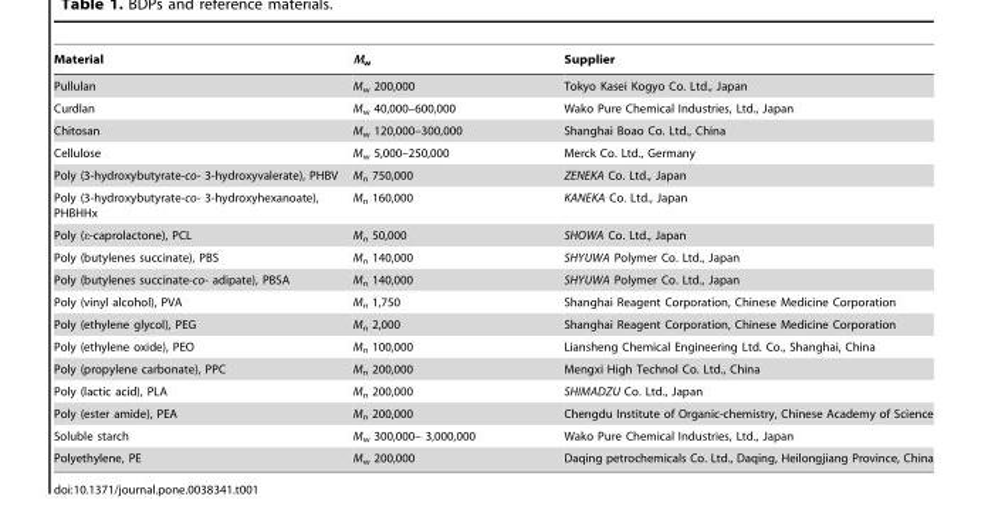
<table><thead><tr><td>Material</td><td>M<sub>w</sub></td><td>Supplier</td></tr></thead><tbody><tr><td>Pullulan</td><td>M<sub>w</sub> 200,000</td><td>Tokyo Kasei Kogyo Co. Ltd., Japan</td></tr><tr><td>Curdlan</td><td>M<sub>w</sub> 40,000–600,000</td><td>Wako Pure Chemical Industries, Ltd., Japan</td></tr><tr><td>Chitosan</td><td>M<sub>w</sub> 120,000–300,000</td><td>Shanghai Boao Co. Ltd., China</td></tr><tr><td>Cellulose</td><td>M<sub>w</sub> 5,000–250,000</td><td>Merck Co. Ltd., Germany</td></tr><tr><td>Poly (3-hydroxybutyrate-co- 3-hydroxyvalerate), PHBV</td><td>M<sub>n</sub> 750,000</td><td>ZENEKA Co. Ltd., Japan</td></tr><tr><td>Poly (3-hydroxybutyrate-co- 3-hydroxyhexanoate), PHBHHx</td><td>M<sub>n</sub> 160,000</td><td>KANEKA Co. Ltd., Japan</td></tr><tr><td>Poly (ε-caprolactone), PCL</td><td>M<sub>n</sub> 50,000</td><td>SHOWA Co. Ltd., Japan</td></tr><tr><td>Poly (butylenes succinate), PBS</td><td>M<sub>n</sub> 140,000</td><td>SHYUWA Polymer Co. Ltd., Japan</td></tr><tr><td>Poly (butylenes succinate-co- adipate), PBSA</td><td>M<sub>n</sub> 140,000</td><td>SHYUWA Polymer Co. Ltd., Japan</td></tr><tr><td>Poly (vinyl alcohol), PVA</td><td>M<sub>n</sub> 1,750</td><td>Shanghai Reagent Corporation, Chinese Medicine Corporation</td></tr><tr><td>Poly (ethylene glycol), PEG</td><td>M<sub>n</sub> 2,000</td><td>Shanghai Reagent Corporation, Chinese Medicine Corporation</td></tr><tr><td>Poly (ethylene oxide), PEO</td><td>M<sub>n</sub> 100,000</td><td>Liansheng Chemical Engineering Ltd. Co., Shanghai, China</td></tr><tr><td>Poly (propylene carbonate), PPC</td><td>M<sub>n</sub> 200,000</td><td>Mengxi High Technol Co. Ltd., China</td></tr><tr><td>Poly (lactic acid), PLA</td><td>M<sub>n</sub> 200,000</td><td>SHIMADZU Co. Ltd., Japan</td></tr><tr><td>Poly (ester amide), PEA</td><td>M<sub>n</sub> 200,000</td><td>Chengdu Institute of Organic-chemistry, Chinese Academy of Science</td></tr><tr><td>Soluble starch</td><td>M<sub>w</sub> 300,000– 3,000,000</td><td>Wako Pure Chemical Industries, Ltd., Japan</td></tr><tr><td>Polyethylene, PE</td><td>M<sub>w</sub> 200,000</td><td>Daqing petrochemicals Co. Ltd., Daqing, Heilongjiang Province, China</td></tr></tbody></table>